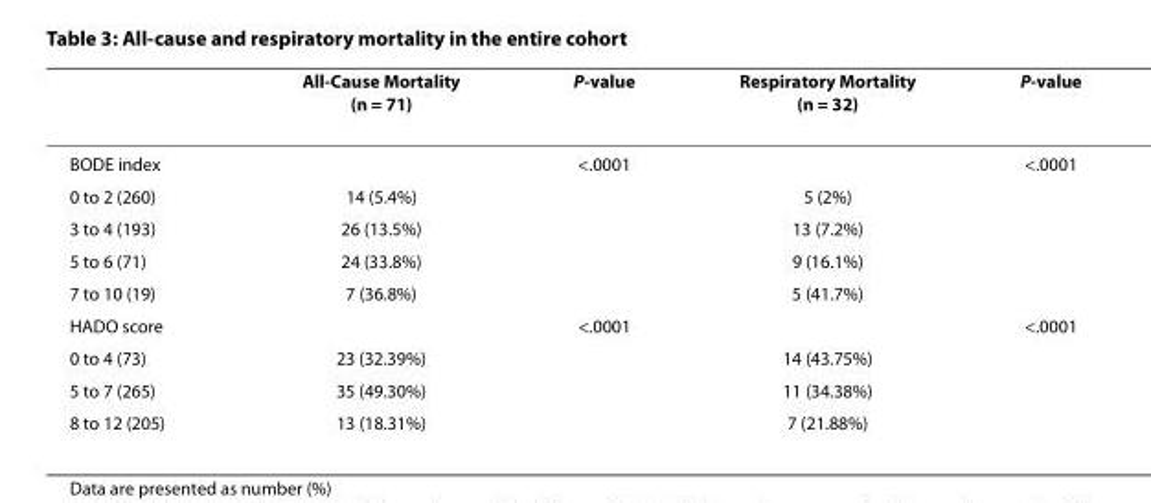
<table><thead><tr><td></td><td>All-Cause Mortality (n = 71)</td><td>P-value</td><td>Respiratory Mortality (n = 32)</td><td>P-value</td></tr></thead><tbody><tr><td>BODE index</td><td></td><td>&lt;.0001</td><td></td><td>&lt;.0001</td></tr><tr><td>0 to 2 (260)</td><td>14 (5.4%)</td><td></td><td>5 (2%)</td><td></td></tr><tr><td>3 to 4 (193)</td><td>26 (13.5%)</td><td></td><td>13 (7.2%)</td><td></td></tr><tr><td>5 to 6 (71)</td><td>24 (33.8%)</td><td></td><td>9 (16.1%)</td><td></td></tr><tr><td>7 to 10 (19)</td><td>7 (36.8%)</td><td></td><td>5 (41.7%)</td><td></td></tr><tr><td>HADO score</td><td></td><td>&lt;.0001</td><td></td><td>&lt;.0001</td></tr><tr><td>0 to 4 (73)</td><td>23 (32.39%)</td><td></td><td>14 (43.75%)</td><td></td></tr><tr><td>5 to 7 (265)</td><td>35 (49.30%)</td><td></td><td>11 (34.38%)</td><td></td></tr><tr><td>8 to 12 (205)</td><td>13 (18.31%)</td><td></td><td>7 (21.88%)</td><td></td></tr></tbody></table>